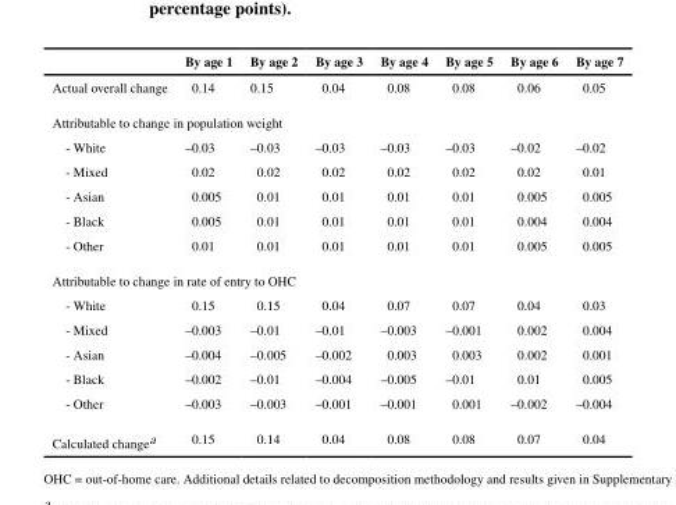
<table><thead><tr><td></td><td>By age 1</td><td>By age 2</td><td>By age 3</td><td>By age 4</td><td>By age 5</td><td>By age 6</td><td>By age 7</td></tr></thead><tbody><tr><td>Actual overall change</td><td>0.14</td><td>0.15</td><td>0.04</td><td>0.08</td><td>0.08</td><td>0.06</td><td>0.05</td></tr><tr><td colspan="8">Attributable to change in population weight</td></tr><tr><td>- White</td><td>–0.03</td><td>–0.03</td><td>–0.03</td><td>–0.03</td><td>–0.03</td><td>–0.02</td><td>–0.02</td></tr><tr><td>- Mixed</td><td>0.02</td><td>0.02</td><td>0.02</td><td>0.02</td><td>0.02</td><td>0.02</td><td>0.01</td></tr><tr><td>- Asian</td><td>0.005</td><td>0.01</td><td>0.01</td><td>0.01</td><td>0.01</td><td>0.005</td><td>0.005</td></tr><tr><td>- Black</td><td>0.005</td><td>0.01</td><td>0.01</td><td>0.01</td><td>0.01</td><td>0.004</td><td>0.004</td></tr><tr><td>- Other</td><td>0.01</td><td>0.01</td><td>0.01</td><td>0.01</td><td>0.01</td><td>0.005</td><td>0.005</td></tr><tr><td colspan="8">Attributable to change in rate of entry to OHC</td></tr><tr><td>- White</td><td>0.15</td><td>0.15</td><td>0.04</td><td>0.07</td><td>0.07</td><td>0.04</td><td>0.03</td></tr><tr><td>- Mixed</td><td>–0.003</td><td>–0.01</td><td>–0.01</td><td>–0.003</td><td>–0.001</td><td>0.002</td><td>0.004</td></tr><tr><td>- Asian</td><td>–0.004</td><td>–0.005</td><td>–0.002</td><td>0.003</td><td>0.003</td><td>0.002</td><td>0.001</td></tr><tr><td>- Black</td><td>–0.002</td><td>–0.01</td><td>–0.004</td><td>–0.005</td><td>–0.01</td><td>0.01</td><td>0.005</td></tr><tr><td>- Other</td><td>–0.003</td><td>–0.003</td><td>–0.001</td><td>–0.001</td><td>0.001</td><td>–0.002</td><td>–0.004</td></tr><tr><td>Calculated change<sup>a</sup></td><td>0.15</td><td>0.14</td><td>0.04</td><td>0.08</td><td>0.08</td><td>0.07</td><td>0.04</td></tr></tbody></table>